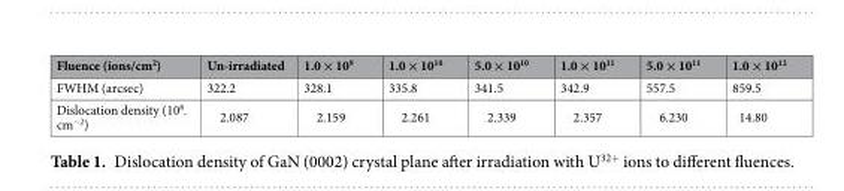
<table><thead><tr><td>Fluence (ions/cm<sup>2</sup>)</td><td>Un-irradiated</td><td>1.0 × 10<sup>9</sup></td><td>1.0 × 10<sup>10</sup></td><td>5.0 × 10<sup>10</sup></td><td>1.0 × 10<sup>11</sup></td><td>5.0 × 10<sup>11</sup></td><td>1.0 × 10<sup>12</sup></td></tr></thead><tbody><tr><td>FWHM (arcsec)</td><td>322.2</td><td>328.1</td><td>335.8</td><td>341.5</td><td>342.9</td><td>557.5</td><td>859.5</td></tr><tr><td>Dislocation density (10<sup>8</sup>. cm<sup>−2</sup>)</td><td>2.087</td><td>2.159</td><td>2.261</td><td>2.339</td><td>2.357</td><td>6.230</td><td>14.80</td></tr></tbody></table>